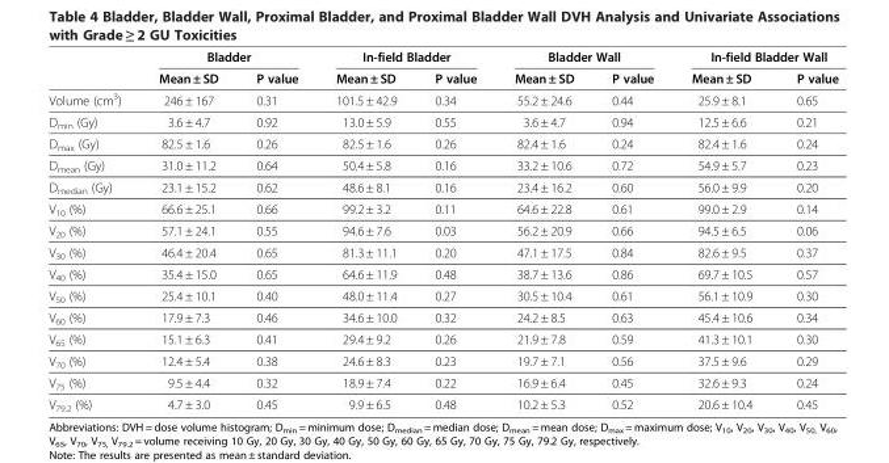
<table><thead><tr><td rowspan="2"></td><td colspan="2">Bladder</td><td colspan="2">In-field Bladder</td><td colspan="2">Bladder Wall</td><td colspan="2">In-field Bladder Wall</td></tr><tr><td>Mean ± SD</td><td>P value</td><td>Mean ± SD</td><td>P value</td><td>Mean ± SD</td><td>P value</td><td>Mean ± SD</td><td>P value</td></tr></thead><tbody><tr><td>Volume (cm<sup>3</sup>)</td><td>246 ± 167</td><td>0.31</td><td>101.5 ± 42.9</td><td>0.34</td><td>55.2 ± 24.6</td><td>0.44</td><td>25.9 ± 8.1</td><td>0.65</td></tr><tr><td>D<sub>min</sub> (Gy)</td><td>3.6 ± 4.7</td><td>0.92</td><td>13.0 ± 5.9</td><td>0.55</td><td>3.6 ± 4.7</td><td>0.94</td><td>12.5 ± 6.6</td><td>0.21</td></tr><tr><td>D<sub>max</sub> (Gy)</td><td>82.5 ± 1.6</td><td>0.26</td><td>82.5 ± 1.6</td><td>0.26</td><td>82.4 ± 1.6</td><td>0.24</td><td>82.4 ± 1.6</td><td>0.24</td></tr><tr><td>D<sub>mean</sub> (Gy)</td><td>31.0 ± 11.2</td><td>0.64</td><td>50.4 ± 5.8</td><td>0.16</td><td>33.2 ± 10.6</td><td>0.72</td><td>54.9 ± 5.7</td><td>0.23</td></tr><tr><td>D<sub>median</sub> (Gy)</td><td>23.1 ± 15.2</td><td>0.62</td><td>48.6 ± 8.1</td><td>0.16</td><td>23.4 ± 16.2</td><td>0.60</td><td>56.0 ± 9.9</td><td>0.20</td></tr><tr><td>V<sub>10</sub> (%)</td><td>66.6 ± 25.1</td><td>0.66</td><td>99.2 ± 3.2</td><td>0.11</td><td>64.6 ± 22.8</td><td>0.61</td><td>99.0 ± 2.9</td><td>0.14</td></tr><tr><td>V<sub>20</sub> (%)</td><td>57.1 ± 24.1</td><td>0.55</td><td>94.6 ± 7.6</td><td>0.03</td><td>56.2 ± 20.9</td><td>0.66</td><td>94.5 ± 6.5</td><td>0.06</td></tr><tr><td>V<sub>30</sub> (%)</td><td>46.4 ± 20.4</td><td>0.65</td><td>81.3 ± 11.1</td><td>0.20</td><td>47.1 ± 17.5</td><td>0.84</td><td>82.6 ± 9.5</td><td>0.37</td></tr><tr><td>V<sub>40</sub> (%)</td><td>35.4 ± 15.0</td><td>0.65</td><td>64.6 ± 11.9</td><td>0.48</td><td>38.7 ± 13.6</td><td>0.86</td><td>69.7 ± 10.5</td><td>0.57</td></tr><tr><td>V<sub>50</sub> (%)</td><td>25.4 ± 10.1</td><td>0.40</td><td>48.0 ± 11.4</td><td>0.27</td><td>30.5 ± 10.4</td><td>0.61</td><td>56.1 ± 10.9</td><td>0.30</td></tr><tr><td>V<sub>60</sub> (%)</td><td>17.9 ± 7.3</td><td>0.46</td><td>34.6 ± 10.0</td><td>0.32</td><td>24.2 ± 8.5</td><td>0.63</td><td>45.4 ± 10.6</td><td>0.34</td></tr><tr><td>V<sub>65</sub> (%)</td><td>15.1 ± 6.3</td><td>0.41</td><td>29.4 ± 9.2</td><td>0.26</td><td>21.9 ± 7.8</td><td>0.59</td><td>41.3 ± 10.1</td><td>0.30</td></tr><tr><td>V<sub>70</sub> (%)</td><td>12.4 ± 5.4</td><td>0.38</td><td>24.6 ± 8.3</td><td>0.23</td><td>19.7 ± 7.1</td><td>0.56</td><td>37.5 ± 9.6</td><td>0.29</td></tr><tr><td>V<sub>75</sub> (%)</td><td>9.5 ± 4.4</td><td>0.32</td><td>18.9 ± 7.4</td><td>0.22</td><td>16.9 ± 6.4</td><td>0.45</td><td>32.6 ± 9.3</td><td>0.24</td></tr><tr><td>V<sub>79.2</sub> (%)</td><td>4.7 ± 3.0</td><td>0.45</td><td>9.9 ± 6.5</td><td>0.48</td><td>10.2 ± 5.3</td><td>0.52</td><td>20.6 ± 10.4</td><td>0.45</td></tr></tbody></table>